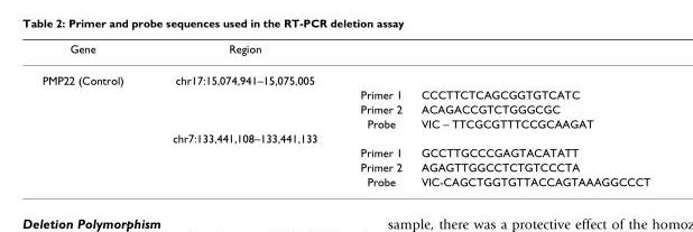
<table><thead><tr><td>Gene</td><td>Region</td><td></td><td></td></tr></thead><tbody><tr><td rowspan="8">PMP22 (Control)</td><td>chr17:15,074,941–15,075,005</td><td></td><td></td></tr><tr><td></td><td>Primer 1</td><td>CCCTTCTCAGCGGTGTCATC</td></tr><tr><td></td><td>Primer 2</td><td>ACAGACCGTCTGGGCGC</td></tr><tr><td></td><td>Probe</td><td>VIC – TTCGCGTTTCCGCAAGAT</td></tr><tr><td>chr7:133,441,108–133,441,133</td><td></td><td></td></tr><tr><td></td><td>Primer 1</td><td>GCCTTGCCCGAGTACATATT</td></tr><tr><td></td><td>Primer 2</td><td>AGAGTTGGCCTCTGTCCCTA</td></tr><tr><td></td><td>Probe</td><td>VIC-CAGCTGGTGTTACCAGTAAAGGCCCT</td></tr></tbody></table>